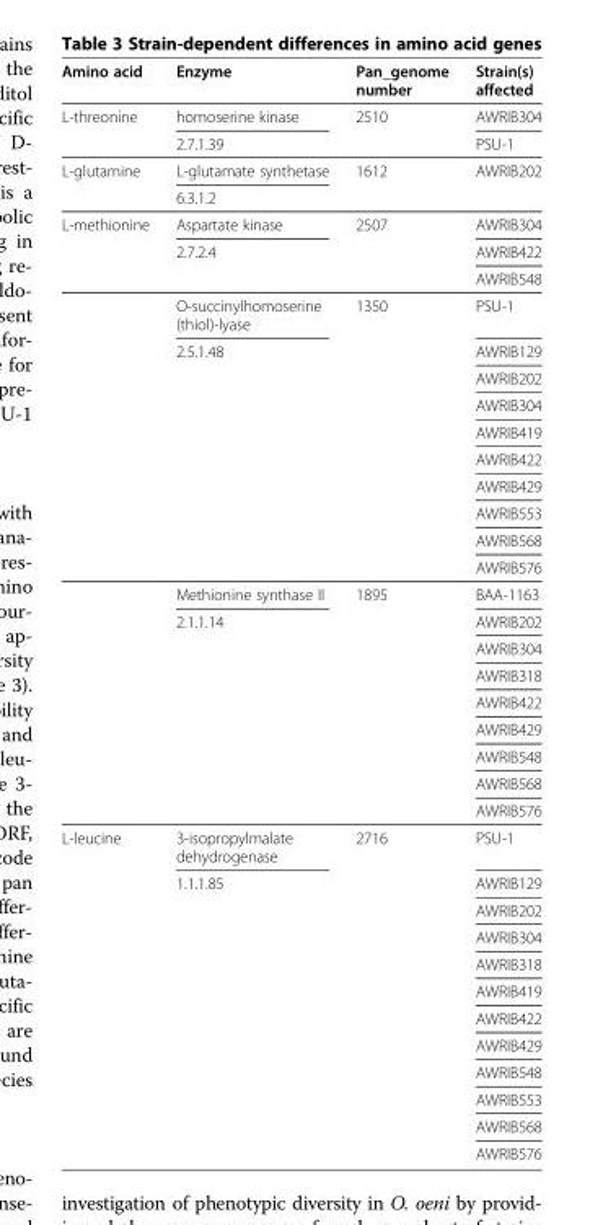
<table><thead><tr><td>Amino acid</td><td>Enzyme</td><td>Pan_genome number</td><td>Strain(s) affected</td></tr></thead><tbody><tr><td rowspan="2">L-threonine</td><td>homoserine kinase</td><td>2510</td><td>AWRIB304</td></tr><tr><td>2.7.1.39</td><td></td><td>PSU-1</td></tr><tr><td rowspan="2">L-glutamine</td><td>L-glutamate synthetase</td><td>1612</td><td>AWRIB202</td></tr><tr><td>6.3.1.2</td><td></td><td></td></tr><tr><td rowspan="22">L-methionine</td><td>Aspartate kinase</td><td>2507</td><td>AWRIB304</td></tr><tr><td>2.7.2.4</td><td></td><td>AWRIB422</td></tr><tr><td></td><td></td><td>AWRIB548</td></tr><tr><td>O-succinylhomoserine (thiol)-lyase</td><td>1350</td><td>PSU-1</td></tr><tr><td>2.5.1.48</td><td></td><td>AWRIB129</td></tr><tr><td></td><td></td><td>AWRIB202</td></tr><tr><td></td><td></td><td>AWRIB304</td></tr><tr><td></td><td></td><td>AWRIB419</td></tr><tr><td></td><td></td><td>AWRIB422</td></tr><tr><td></td><td></td><td>AWRIB429</td></tr><tr><td></td><td></td><td>AWRIB553</td></tr><tr><td></td><td></td><td>AWRIB568</td></tr><tr><td></td><td></td><td>AWRIB576</td></tr><tr><td>Methionine synthase II</td><td>1895</td><td>BAA-1163</td></tr><tr><td>2.1.1.14</td><td></td><td>AWRIB202</td></tr><tr><td></td><td></td><td>AWRIB304</td></tr><tr><td></td><td></td><td>AWRIB318</td></tr><tr><td></td><td></td><td>AWRIB422</td></tr><tr><td></td><td></td><td>AWRIB429</td></tr><tr><td></td><td></td><td>AWRIB548</td></tr><tr><td></td><td></td><td>AWRIB568</td></tr><tr><td></td><td></td><td>AWRIB576</td></tr><tr><td rowspan="12">L-leucine</td><td>3-isopropylmalate dehydrogenase</td><td>2716</td><td>PSU-1</td></tr><tr><td>1.1.1.85</td><td></td><td>AWRIB129</td></tr><tr><td></td><td></td><td>AWRIB202</td></tr><tr><td></td><td></td><td>AWRIB304</td></tr><tr><td></td><td></td><td>AWRIB318</td></tr><tr><td></td><td></td><td>AWRIB419</td></tr><tr><td></td><td></td><td>AWRIB422</td></tr><tr><td></td><td></td><td>AWRIB429</td></tr><tr><td></td><td></td><td>AWRIB548</td></tr><tr><td></td><td></td><td>AWRIB553</td></tr><tr><td></td><td></td><td>AWRIB568</td></tr><tr><td></td><td></td><td>AWRIB576</td></tr></tbody></table>